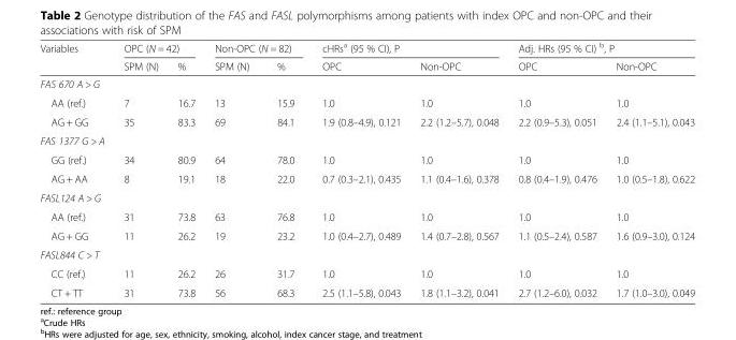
<table><thead><tr><td rowspan="2">Variables</td><td colspan="2">OPC (N = 42)</td><td colspan="2">Non-OPC (N = 82)</td><td colspan="2">cHRs<sup>a</sup> (95 % CI), P</td><td colspan="2">Adj. HRs (95 % CI) <sup>b</sup>, P</td></tr><tr><td>SPM (N)</td><td>%</td><td>SPM (N)</td><td>%</td><td>OPC</td><td>Non-OPC</td><td>OPC</td><td>Non-OPC</td></tr></thead><tbody><tr><td colspan="9">FAS 670 A &gt; G</td></tr><tr><td>AA (ref.)</td><td>7</td><td>16.7</td><td>13</td><td>15.9</td><td>1.0</td><td>1.0</td><td>1.0</td><td>1.0</td></tr><tr><td>AG + GG</td><td>35</td><td>83.3</td><td>69</td><td>84.1</td><td>1.9 (0.8–4.9), 0.121</td><td>2.2 (1.2–5.7), 0.048</td><td>2.2 (0.9–5.3), 0.051</td><td>2.4 (1.1–5.1), 0.043</td></tr><tr><td colspan="9">FAS 1377 G &gt; A</td></tr><tr><td>GG (ref.)</td><td>34</td><td>80.9</td><td>64</td><td>78.0</td><td>1.0</td><td>1.0</td><td>1.0</td><td>1.0</td></tr><tr><td>AG + AA</td><td>8</td><td>19.1</td><td>18</td><td>22.0</td><td>0.7 (0.3–2.1), 0.435</td><td>1.1 (0.4–1.6), 0.378</td><td>0.8 (0.4–1.9), 0.476</td><td>1.0 (0.5–1.8), 0.622</td></tr><tr><td colspan="9">FASL124 A &gt; G</td></tr><tr><td>AA (ref.)</td><td>31</td><td>73.8</td><td>63</td><td>76.8</td><td>1.0</td><td>1.0</td><td>1.0</td><td>1.0</td></tr><tr><td>AG + GG</td><td>11</td><td>26.2</td><td>19</td><td>23.2</td><td>1.0 (0.4–2.7), 0.489</td><td>1.4 (0.7–2.8), 0.567</td><td>1.1 (0.5–2.4), 0.587</td><td>1.6 (0.9–3.0), 0.124</td></tr><tr><td colspan="9">FASL844 C &gt; T</td></tr><tr><td>CC (ref.)</td><td>11</td><td>26.2</td><td>26</td><td>31.7</td><td>1.0</td><td>1.0</td><td>1.0</td><td>1.0</td></tr><tr><td>CT + TT</td><td>31</td><td>73.8</td><td>56</td><td>68.3</td><td>2.5 (1.1–5.8), 0.043</td><td>1.8 (1.1–3.2), 0.041</td><td>2.7 (1.2–6.0), 0.032</td><td>1.7 (1.0–3.0), 0.049</td></tr></tbody></table>